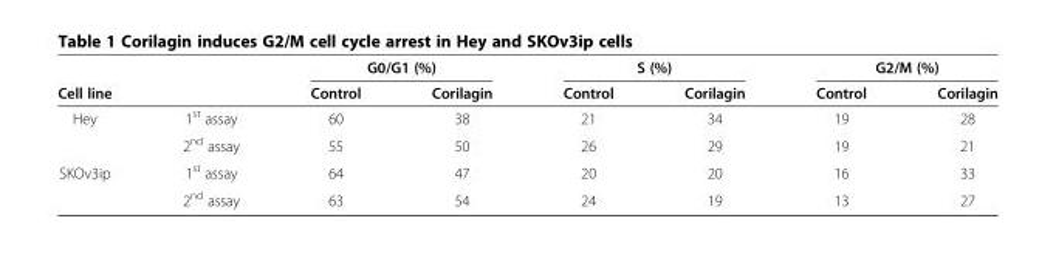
<table><thead><tr><td rowspan="2">Cell line</td><td rowspan="2"></td><td colspan="2">G0/G1 (%)</td><td colspan="2">S (%)</td><td colspan="2">G2/M (%)</td></tr><tr><td>Control</td><td>Corilagin</td><td>Control</td><td>Corilagin</td><td>Control</td><td>Corilagin</td></tr></thead><tbody><tr><td rowspan="2">Hey</td><td>1<sup>st</sup> assay</td><td>60</td><td>38</td><td>21</td><td>34</td><td>19</td><td>28</td></tr><tr><td>2<sup>nd</sup> assay</td><td>55</td><td>50</td><td>26</td><td>29</td><td>19</td><td>21</td></tr><tr><td rowspan="2">SKOv3ip</td><td>1<sup>st</sup> assay</td><td>64</td><td>47</td><td>20</td><td>20</td><td>16</td><td>33</td></tr><tr><td>2<sup>nd</sup> assay</td><td>63</td><td>54</td><td>24</td><td>19</td><td>13</td><td>27</td></tr></tbody></table>